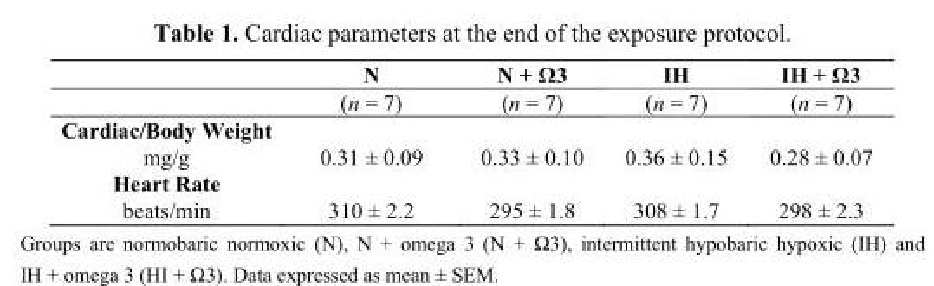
<table><thead><tr><td></td><td>N</td><td>N + Ω3</td><td>IH</td><td>IH + Ω3</td></tr></thead><tbody><tr><td></td><td>(n = 7)</td><td>(n = 7)</td><td>(n = 7)</td><td>(n = 7)</td></tr><tr><td colspan="5">Cardiac/Body Weight</td></tr><tr><td>mg/g</td><td>0.31 ± 0.09</td><td>0.33 ± 0.10</td><td>0.36 ± 0.15</td><td>0.28 ± 0.07</td></tr><tr><td colspan="5">Heart Rate</td></tr><tr><td>beats/min</td><td>310 ± 2.2</td><td>295 ± 1.8</td><td>308 ± 1.7</td><td>298 ± 2.3</td></tr></tbody></table>